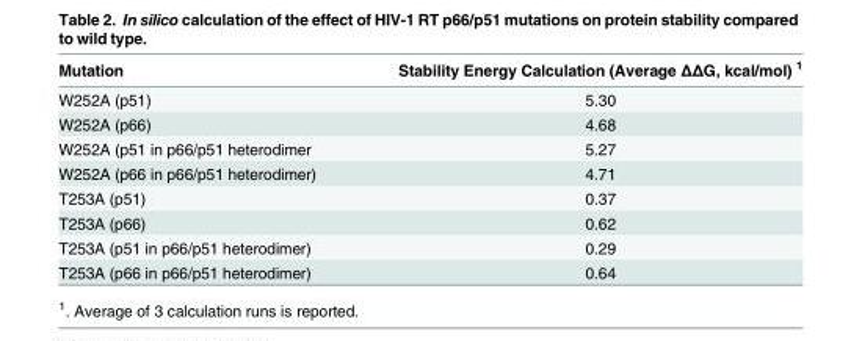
<table><thead><tr><td>Mutation</td><td>Stability Energy Calculation (Average ΔΔG, kcal/mol) <sup>1</sup></td></tr></thead><tbody><tr><td>W252A (p51)</td><td>5.30</td></tr><tr><td>W252A (p66)</td><td>4.68</td></tr><tr><td>W252A (p51 in p66/p51 heterodimer</td><td>5.27</td></tr><tr><td>W252A (p66 in p66/p51 heterodimer)</td><td>4.71</td></tr><tr><td>T253A (p51)</td><td>0.37</td></tr><tr><td>T253A (p66)</td><td>0.62</td></tr><tr><td>T253A (p51 in p66/p51 heterodimer)</td><td>0.29</td></tr><tr><td>T253A (p66 in p66/p51 heterodimer)</td><td>0.64</td></tr></tbody></table>